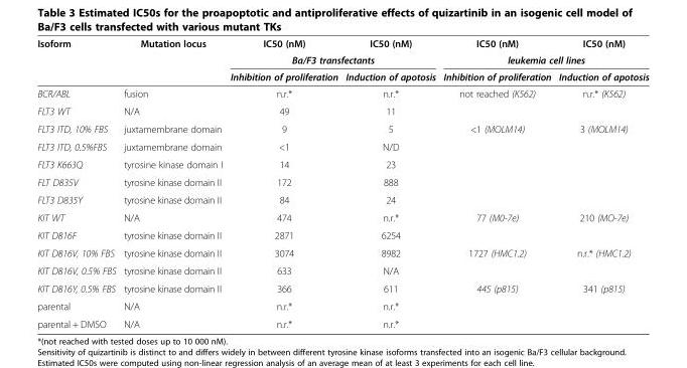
<table><thead><tr><td rowspan="3">Isoform</td><td rowspan="3">Mutation locus</td><td>IC50 (nM)</td><td>IC50 (nM)</td><td>IC50 (nM)</td><td>IC50 (nM)</td></tr><tr><td colspan="2">Ba/F3 transfectants</td><td colspan="2">leukemia cell lines</td></tr><tr><td>Inhibition of proliferation</td><td>Induction of apotosis</td><td>Inhibition of proliferation</td><td>Induction of apotosis</td></tr></thead><tbody><tr><td>BCR/ABL</td><td>fusion</td><td>n.r.*</td><td>n.r.*</td><td>not reached (K562)</td><td>n.r.* (K562)</td></tr><tr><td>FLT3 WT</td><td>N/A</td><td>49</td><td>11</td><td></td><td></td></tr><tr><td>FLT3 ITD, 10% FBS</td><td>juxtamembrane domain</td><td>9</td><td>5</td><td>&lt;1 (MOLM14)</td><td>3 (MOLM14)</td></tr><tr><td>FLT3 ITD, 0.5%FBS</td><td>juxtamembrane domain</td><td>&lt;1</td><td>N/D</td><td></td><td></td></tr><tr><td>FLT3 K663Q</td><td>tyrosine kinase domain I</td><td>14</td><td>23</td><td></td><td></td></tr><tr><td>FLT D835V</td><td>tyrosine kinase domain II</td><td>172</td><td>888</td><td></td><td></td></tr><tr><td>FLT3 D835Y</td><td>tyrosine kinase domain II</td><td>84</td><td>24</td><td></td><td></td></tr><tr><td>KIT WT</td><td>N/A</td><td>474</td><td>n.r.*</td><td>77 (M0-7e)</td><td>210 (MO-7e)</td></tr><tr><td>KIT D816F</td><td>tyrosine kinase domain II</td><td>2871</td><td>6254</td><td></td><td></td></tr><tr><td>KIT D816V, 10% FBS</td><td>tyrosine kinase domain II</td><td>3074</td><td>8982</td><td>1727 (HMC1.2)</td><td>n.r.* (HMC1.2)</td></tr><tr><td>KIT D816V, 0.5% FBS</td><td>tyrosine kinase domain II</td><td>633</td><td>N/A</td><td></td><td></td></tr><tr><td>KIT D816Y, 0.5% FBS</td><td>tyrosine kinase domain II</td><td>366</td><td>611</td><td>445 (p815)</td><td>341 (p815)</td></tr><tr><td>parental</td><td>N/A</td><td>n.r.*</td><td>n.r.*</td><td></td><td></td></tr><tr><td>parental + DMSO</td><td>N/A</td><td>n.r.*</td><td>n.r.*</td><td></td><td></td></tr></tbody></table>